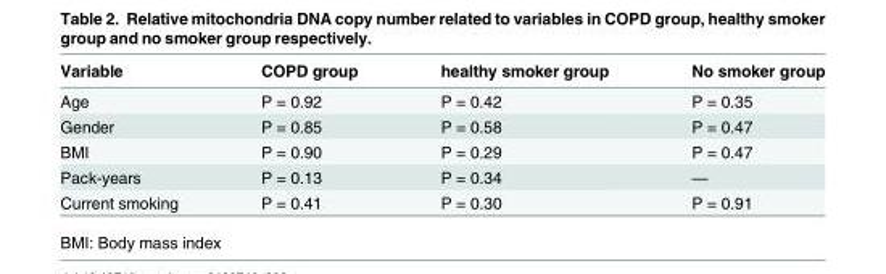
<table><thead><tr><td>Variable</td><td>COPD group</td><td>healthy smoker group</td><td>No smoker group</td></tr></thead><tbody><tr><td>Age</td><td>P = 0.92</td><td>P = 0.42</td><td>P = 0.35</td></tr><tr><td>Gender</td><td>P = 0.85</td><td>P = 0.58</td><td>P = 0.47</td></tr><tr><td>BMI</td><td>P = 0.90</td><td>P = 0.29</td><td>P = 0.47</td></tr><tr><td>Pack-years</td><td>P = 0.13</td><td>P = 0.34</td><td>—</td></tr><tr><td>Current smoking</td><td>P = 0.41</td><td>P = 0.30</td><td>P = 0.91</td></tr></tbody></table>